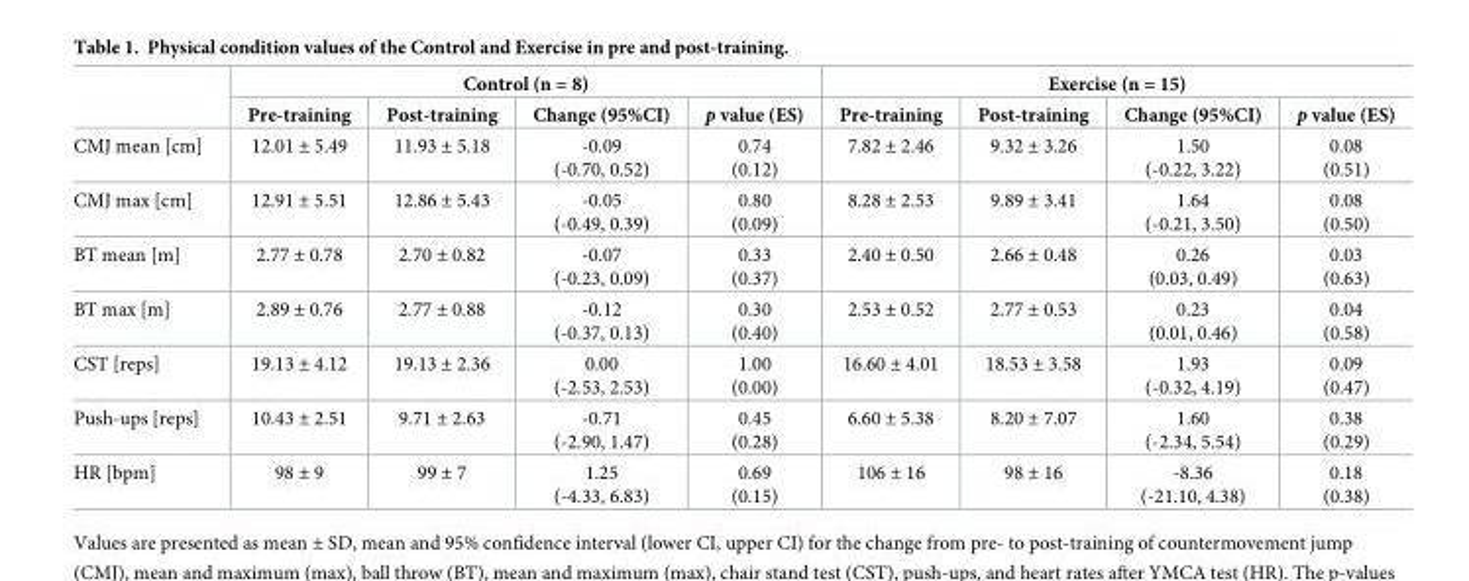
<table><thead><tr><td rowspan="2"></td><td colspan="4">Control (n = 8)</td><td colspan="4">Exercise (n = 15)</td></tr><tr><td>Pre-training</td><td>Post-training</td><td>Change (95%CI)</td><td>p value (ES)</td><td>Pre-training</td><td>Post-training</td><td>Change (95%CI)</td><td>p value (ES)</td></tr></thead><tbody><tr><td>CMJ mean [cm]</td><td>12.01 ± 5.49</td><td>11.93 ± 5.18</td><td>-0.09 (-0.70, 0.52)</td><td>0.74 (0.12)</td><td>7.82 ± 2.46</td><td>9.32 ± 3.26</td><td>1.50 (-0.22, 3.22)</td><td>0.08 (0.51)</td></tr><tr><td>CMJ max [cm]</td><td>12.91 ± 5.51</td><td>12.86 ± 5.43</td><td>-0.05 (-0.49, 0.39)</td><td>0.80 (0.09)</td><td>8.28 ± 2.53</td><td>9.89 ± 3.41</td><td>1.64 (-0.21, 3.50)</td><td>0.08 (0.50)</td></tr><tr><td>BT mean [m]</td><td>2.77 ± 0.78</td><td>2.70 ± 0.82</td><td>-0.07 (-0.23, 0.09)</td><td>0.33 (0.37)</td><td>2.40 ± 0.50</td><td>2.66 ± 0.48</td><td>0.26 (0.03, 0.49)</td><td>0.03 (0.63)</td></tr><tr><td>BT max [m]</td><td>2.89 ± 0.76</td><td>2.77 ± 0.88</td><td>-0.12 (-0.37, 0.13)</td><td>0.30 (0.40)</td><td>2.53 ± 0.52</td><td>2.77 ± 0.53</td><td>0.23 (0.01, 0.46)</td><td>0.04 (0.58)</td></tr><tr><td>CST [reps]</td><td>19.13 ± 4.12</td><td>19.13 ± 2.36</td><td>0.00 (-2.53, 2.53)</td><td>1.00 (0.00)</td><td>16.60 ± 4.01</td><td>18.53 ± 3.58</td><td>1.93 (-0.32, 4.19)</td><td>0.09 (0.47)</td></tr><tr><td>Push-ups [reps]</td><td>10.43 ± 2.51</td><td>9.71 ± 2.63</td><td>-0.71 (-2.90, 1.47)</td><td>0.45 (0.28)</td><td>6.60 ± 5.38</td><td>8.20 ± 7.07</td><td>1.60 (-2.34, 5.54)</td><td>0.38 (0.29)</td></tr><tr><td>HR [bpm]</td><td>98 ± 9</td><td>99 ± 7</td><td>1.25 (-4.33, 6.83)</td><td>0.69 (0.15)</td><td>106 ± 16</td><td>98 ± 16</td><td>-8.36 (-21.10, 4.38)</td><td>0.18 (0.38)</td></tr></tbody></table>